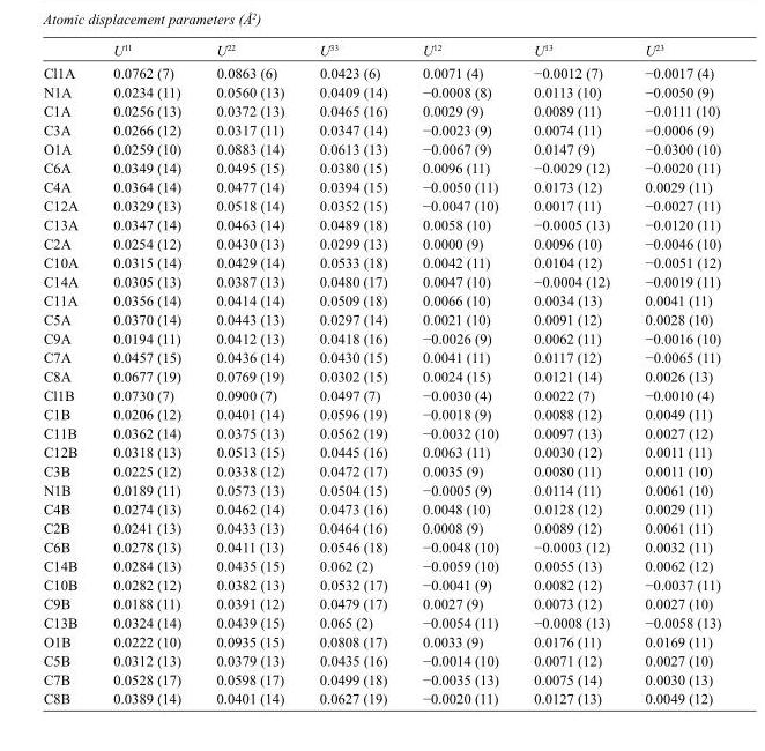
<table><thead><tr><td></td><td>U<sup>11</sup></td><td>U<sup>22</sup></td><td>U<sup>33</sup></td><td>U<sup>12</sup></td><td>U<sup>13</sup></td><td>U<sup>23</sup></td></tr></thead><tbody><tr><td>Cl1A</td><td>0.0762 (7)</td><td>0.0863 (6)</td><td>0.0423 (6)</td><td>0.0071 (4)</td><td>−0.0012 (7)</td><td>−0.0017 (4)</td></tr><tr><td>N1A</td><td>0.0234 (11)</td><td>0.0560 (13)</td><td>0.0409 (14)</td><td>−0.0008 (8)</td><td>0.0113 (10)</td><td>−0.0050 (9)</td></tr><tr><td>C1A</td><td>0.0256 (13)</td><td>0.0372 (13)</td><td>0.0465 (16)</td><td>0.0029 (9)</td><td>0.0089 (11)</td><td>−0.0111 (10)</td></tr><tr><td>C3A</td><td>0.0266 (12)</td><td>0.0317 (11)</td><td>0.0347 (14)</td><td>−0.0023 (9)</td><td>0.0074 (11)</td><td>−0.0006 (9)</td></tr><tr><td>O1A</td><td>0.0259 (10)</td><td>0.0883 (14)</td><td>0.0613 (13)</td><td>−0.0067 (9)</td><td>0.0147 (9)</td><td>−0.0300 (10)</td></tr><tr><td>C6A</td><td>0.0349 (14)</td><td>0.0495 (15)</td><td>0.0380 (15)</td><td>0.0096 (11)</td><td>−0.0029 (12)</td><td>−0.0020 (11)</td></tr><tr><td>C4A</td><td>0.0364 (14)</td><td>0.0477 (14)</td><td>0.0394 (15)</td><td>−0.0050 (11)</td><td>0.0173 (12)</td><td>0.0029 (11)</td></tr><tr><td>C12A</td><td>0.0329 (13)</td><td>0.0518 (14)</td><td>0.0352 (15)</td><td>−0.0047 (10)</td><td>0.0017 (11)</td><td>−0.0027 (11)</td></tr><tr><td>C13A</td><td>0.0347 (14)</td><td>0.0463 (14)</td><td>0.0489 (18)</td><td>0.0058 (10)</td><td>−0.0005 (13)</td><td>−0.0120 (11)</td></tr><tr><td>C2A</td><td>0.0254 (12)</td><td>0.0430 (13)</td><td>0.0299 (13)</td><td>0.0000 (9)</td><td>0.0096 (10)</td><td>−0.0046 (10)</td></tr><tr><td>C10A</td><td>0.0315 (14)</td><td>0.0429 (14)</td><td>0.0533 (18)</td><td>0.0042 (11)</td><td>0.0104 (12)</td><td>−0.0051 (12)</td></tr><tr><td>C14A</td><td>0.0305 (13)</td><td>0.0387 (13)</td><td>0.0480 (17)</td><td>0.0047 (10)</td><td>−0.0004 (12)</td><td>−0.0019 (11)</td></tr><tr><td>C11A</td><td>0.0356 (14)</td><td>0.0414 (14)</td><td>0.0509 (18)</td><td>0.0066 (10)</td><td>0.0034 (13)</td><td>0.0041 (11)</td></tr><tr><td>C5A</td><td>0.0370 (14)</td><td>0.0443 (13)</td><td>0.0297 (14)</td><td>0.0021 (10)</td><td>0.0091 (12)</td><td>0.0028 (10)</td></tr><tr><td>C9A</td><td>0.0194 (11)</td><td>0.0412 (13)</td><td>0.0418 (16)</td><td>−0.0026 (9)</td><td>0.0062 (11)</td><td>−0.0016 (10)</td></tr><tr><td>C7A</td><td>0.0457 (15)</td><td>0.0436 (14)</td><td>0.0430 (15)</td><td>0.0041 (11)</td><td>0.0117 (12)</td><td>−0.0065 (11)</td></tr><tr><td>C8A</td><td>0.0677 (19)</td><td>0.0769 (19)</td><td>0.0302 (15)</td><td>0.0024 (15)</td><td>0.0121 (14)</td><td>0.0026 (13)</td></tr><tr><td>Cl1B</td><td>0.0730 (7)</td><td>0.0900 (7)</td><td>0.0497 (7)</td><td>−0.0030 (4)</td><td>0.0022 (7)</td><td>−0.0010 (4)</td></tr><tr><td>C1B</td><td>0.0206 (12)</td><td>0.0401 (14)</td><td>0.0596 (19)</td><td>−0.0018 (9)</td><td>0.0088 (12)</td><td>0.0049 (11)</td></tr><tr><td>C11B</td><td>0.0362 (14)</td><td>0.0375 (13)</td><td>0.0562 (19)</td><td>−0.0032 (10)</td><td>0.0097 (13)</td><td>0.0027 (12)</td></tr><tr><td>C12B</td><td>0.0318 (13)</td><td>0.0513 (15)</td><td>0.0445 (16)</td><td>0.0063 (11)</td><td>0.0030 (12)</td><td>0.0011 (11)</td></tr><tr><td>C3B</td><td>0.0225 (12)</td><td>0.0338 (12)</td><td>0.0472 (17)</td><td>0.0035 (9)</td><td>0.0080 (11)</td><td>0.0011 (10)</td></tr><tr><td>N1B</td><td>0.0189 (11)</td><td>0.0573 (13)</td><td>0.0504 (15)</td><td>−0.0005 (9)</td><td>0.0114 (11)</td><td>0.0061 (10)</td></tr><tr><td>C4B</td><td>0.0274 (13)</td><td>0.0462 (14)</td><td>0.0473 (16)</td><td>0.0048 (10)</td><td>0.0128 (12)</td><td>0.0029 (11)</td></tr><tr><td>C2B</td><td>0.0241 (13)</td><td>0.0433 (13)</td><td>0.0464 (16)</td><td>0.0008 (9)</td><td>0.0089 (12)</td><td>0.0061 (11)</td></tr><tr><td>C6B</td><td>0.0278 (13)</td><td>0.0411 (13)</td><td>0.0546 (18)</td><td>−0.0048 (10)</td><td>−0.0003 (12)</td><td>0.0032 (11)</td></tr><tr><td>C14B</td><td>0.0284 (13)</td><td>0.0435 (15)</td><td>0.062 (2)</td><td>−0.0059 (10)</td><td>0.0055 (13)</td><td>0.0062 (12)</td></tr><tr><td>C10B</td><td>0.0282 (12)</td><td>0.0382 (13)</td><td>0.0532 (17)</td><td>−0.0041 (9)</td><td>0.0082 (12)</td><td>−0.0037 (11)</td></tr><tr><td>C9B</td><td>0.0188 (11)</td><td>0.0391 (12)</td><td>0.0479 (17)</td><td>0.0027 (9)</td><td>0.0073 (12)</td><td>0.0027 (10)</td></tr><tr><td>C13B</td><td>0.0324 (14)</td><td>0.0439 (15)</td><td>0.065 (2)</td><td>−0.0054 (11)</td><td>−0.0008 (13)</td><td>−0.0058 (13)</td></tr><tr><td>O1B</td><td>0.0222 (10)</td><td>0.0935 (15)</td><td>0.0808 (17)</td><td>0.0033 (9)</td><td>0.0176 (11)</td><td>0.0169 (11)</td></tr><tr><td>C5B</td><td>0.0312 (13)</td><td>0.0379 (13)</td><td>0.0435 (16)</td><td>−0.0014 (10)</td><td>0.0071 (12)</td><td>0.0027 (10)</td></tr><tr><td>C7B</td><td>0.0528 (17)</td><td>0.0598 (17)</td><td>0.0499 (18)</td><td>−0.0035 (13)</td><td>0.0075 (14)</td><td>0.0030 (13)</td></tr><tr><td>C8B</td><td>0.0389 (14)</td><td>0.0401 (14)</td><td>0.0627 (19)</td><td>−0.0020 (11)</td><td>0.0127 (13)</td><td>0.0049 (12)</td></tr></tbody></table>